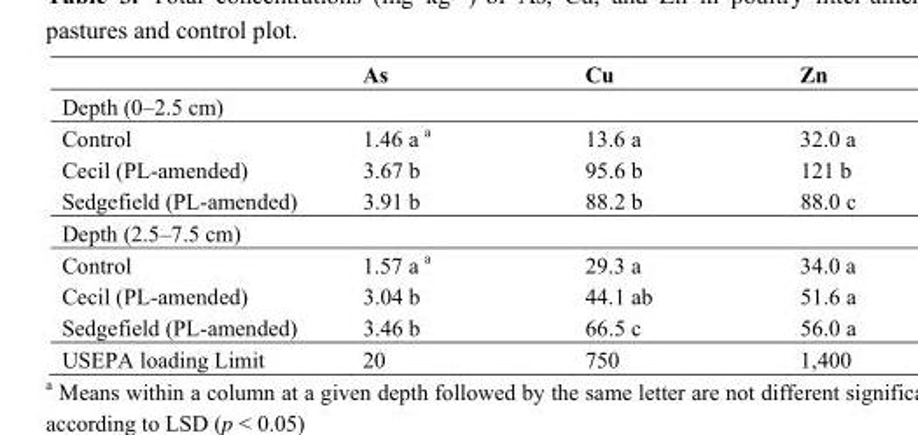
<table><thead><tr><td></td><td>As</td><td>Cu</td><td>Zn</td></tr></thead><tbody><tr><td colspan="4">Depth (0–2.5 cm)</td></tr><tr><td>Control</td><td>1.46 a <sup>a</sup></td><td>13.6 a</td><td>32.0 a</td></tr><tr><td>Cecil (PL-amended)</td><td>3.67 b</td><td>95.6 b</td><td>121 b</td></tr><tr><td>Sedgefield (PL-amended)</td><td>3.91 b</td><td>88.2 b</td><td>88.0 c</td></tr><tr><td colspan="4">Depth (2.5–7.5 cm)</td></tr><tr><td>Control</td><td>1.57 a <sup>a</sup></td><td>29.3 a</td><td>34.0 a</td></tr><tr><td>Cecil (PL-amended)</td><td>3.04 b</td><td>44.1 ab</td><td>51.6 a</td></tr><tr><td>Sedgefield (PL-amended)</td><td>3.46 b</td><td>66.5 c</td><td>56.0 a</td></tr><tr><td>USEPA loading Limit</td><td>20</td><td>750</td><td>1,400</td></tr></tbody></table>